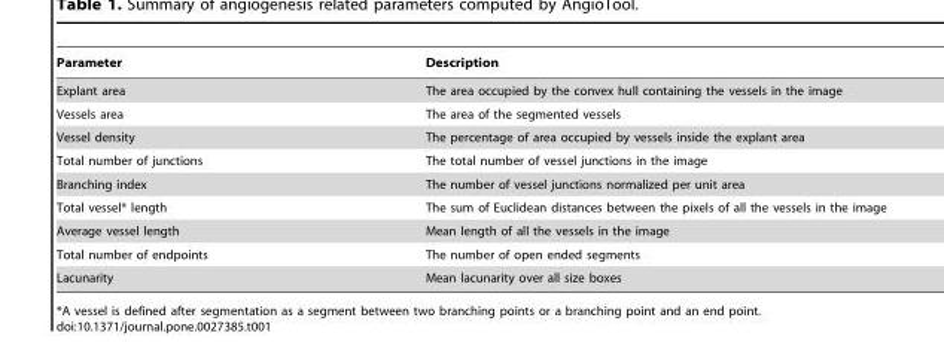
<table><thead><tr><td>Parameter</td><td>Description</td></tr></thead><tbody><tr><td>Explant area</td><td>The area occupied by the convex hull containing the vessels in the image</td></tr><tr><td>Vessels area</td><td>The area of the segmented vessels</td></tr><tr><td>Vessel density</td><td>The percentage of area occupied by vessels inside the explant area</td></tr><tr><td>Total number of junctions</td><td>The total number of vessel junctions in the image</td></tr><tr><td>Branching index</td><td>The number of vessel junctions normalized per unit area</td></tr><tr><td>Total vessel* length</td><td>The sum of Euclidean distances between the pixels of all the vessels in the image</td></tr><tr><td>Average vessel length</td><td>Mean length of all the vessels in the image</td></tr><tr><td>Total number of endpoints</td><td>The number of open ended segments</td></tr><tr><td>Lacunarity</td><td>Mean lacunarity over all size boxes</td></tr></tbody></table>